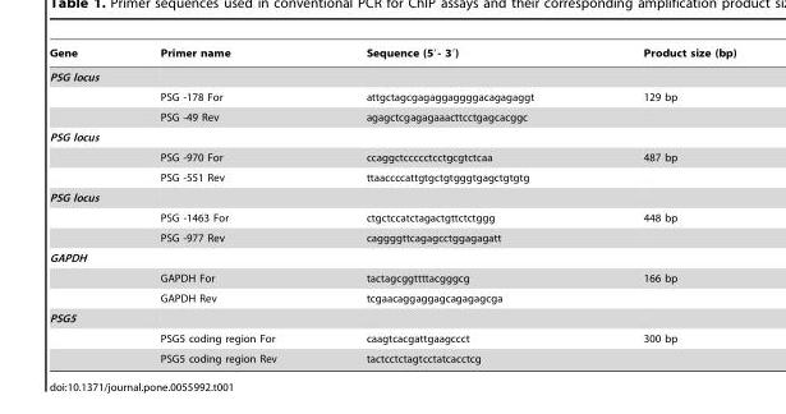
<table><thead><tr><td>Gene</td><td>Primer name</td><td>Sequence (5′- 3′)</td><td>Product size (bp)</td></tr></thead><tbody><tr><td colspan="4">PSG locus</td></tr><tr><td></td><td>PSG -178 For</td><td>attgctagcgagaggaggggacagagaggt</td><td>129 bp</td></tr><tr><td></td><td>PSG -49 Rev</td><td>agagctcgagagaaacttcctgagcacggc</td><td></td></tr><tr><td colspan="4">PSG locus</td></tr><tr><td></td><td>PSG -970 For</td><td>ccaggctccccctcctgcgtctcaa</td><td>487 bp</td></tr><tr><td></td><td>PSG -551 Rev</td><td>ttaaccccattgtgctgtgggtgagctgtgtg</td><td></td></tr><tr><td colspan="4">PSG locus</td></tr><tr><td></td><td>PSG -1463 For</td><td>ctgctccatctagactgttctctggg</td><td>448 bp</td></tr><tr><td></td><td>PSG -977 Rev</td><td>caggggttcagagcctggagagatt</td><td></td></tr><tr><td colspan="4">GAPDH</td></tr><tr><td></td><td>GAPDH For</td><td>tactagcggttttacgggcg</td><td>166 bp</td></tr><tr><td></td><td>GAPDH Rev</td><td>tcgaacaggaggagcagagagcga</td><td></td></tr><tr><td colspan="4">PSG5</td></tr><tr><td></td><td>PSG5 coding region For</td><td>caagtcacgattgaagccct</td><td>300 bp</td></tr><tr><td></td><td>PSG5 coding region Rev</td><td>tactcctctagtcctatcacctcg</td><td></td></tr></tbody></table>